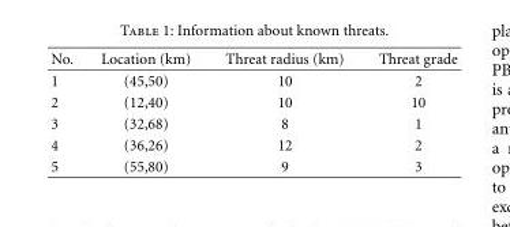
<table><thead><tr><td>No.</td><td>Location (km)</td><td>Threat radius (km)</td><td>Threat grade</td></tr></thead><tbody><tr><td>1</td><td>(45,50)</td><td>10</td><td>2</td></tr><tr><td>2</td><td>(12,40)</td><td>10</td><td>10</td></tr><tr><td>3</td><td>(32,68)</td><td>8</td><td>1</td></tr><tr><td>4</td><td>(36,26)</td><td>12</td><td>2</td></tr><tr><td>5</td><td>(55,80)</td><td>9</td><td>3</td></tr></tbody></table>